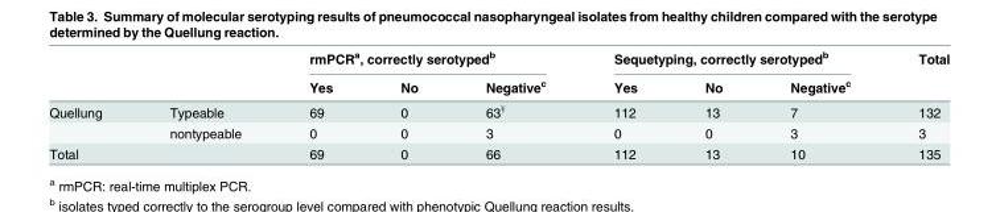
<table><thead><tr><td rowspan="2"></td><td rowspan="2"></td><td colspan="3">rmPCR<sup>a</sup>, correctly serotyped<sup>b</sup></td><td colspan="3">Sequetyping, correctly serotyped<sup>b</sup></td><td rowspan="2">Total</td></tr><tr><td>Yes</td><td>No</td><td>Negative<sup>c</sup></td><td>Yes</td><td>No</td><td>Negative<sup>c</sup></td></tr></thead><tbody><tr><td rowspan="2">Quellung</td><td>Typeable</td><td>69</td><td>0</td><td>63<sup>¥</sup></td><td>112</td><td>13</td><td>7</td><td>132</td></tr><tr><td>nontypeable</td><td>0</td><td>0</td><td>3</td><td>0</td><td>0</td><td>3</td><td>3</td></tr><tr><td>Total</td><td></td><td>69</td><td>0</td><td>66</td><td>112</td><td>13</td><td>10</td><td>135</td></tr></tbody></table>